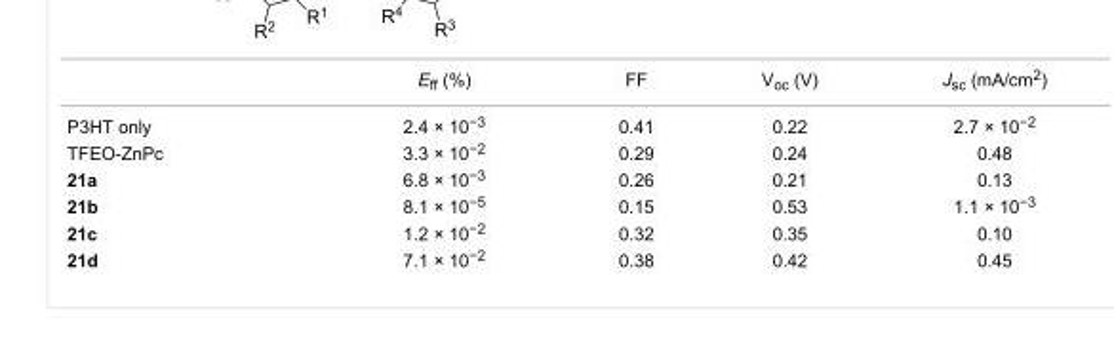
<table><thead><tr><td></td><td>E<sub>ff</sub> (%)</td><td>FF</td><td>V<sub>oc</sub> (V)</td><td>J<sub>sc</sub> (mA/cm<sup>2</sup>)</td></tr></thead><tbody><tr><td>P3HT only</td><td>2.4 × 10<sup>−3</sup></td><td>0.41</td><td>0.22</td><td>2.7 × 10<sup>−2</sup></td></tr><tr><td>TFEO-ZnPc</td><td>3.3 × 10<sup>−2</sup></td><td>0.29</td><td>0.24</td><td>0.48</td></tr><tr><td>21a</td><td>6.8 × 10<sup>−3</sup></td><td>0.26</td><td>0.21</td><td>0.13</td></tr><tr><td>21b</td><td>8.1 × 10<sup>−5</sup></td><td>0.15</td><td>0.53</td><td>1.1 × 10<sup>−3</sup></td></tr><tr><td>21c</td><td>1.2 × 10<sup>−2</sup></td><td>0.32</td><td>0.35</td><td>0.10</td></tr><tr><td>21d</td><td>7.1 × 10<sup>−2</sup></td><td>0.38</td><td>0.42</td><td>0.45</td></tr></tbody></table>